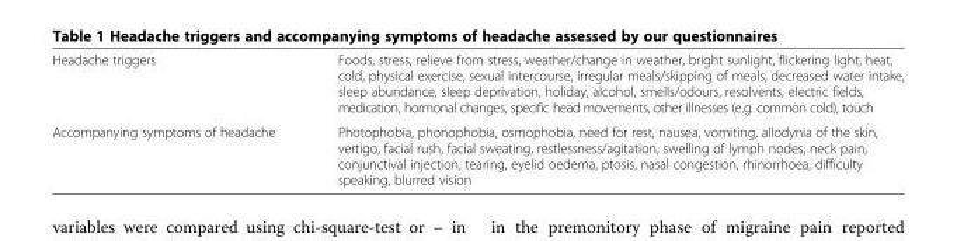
<table><tbody><tr><td>Headache triggers</td><td>Foods, stress, relieve from stress, weather/change in weather, bright sunlight, flickering light, heat, cold, physical exercise, sexual intercourse, irregular meals/skipping of meals, decreased water intake, sleep abundance, sleep deprivation, holiday, alcohol, smells/odours, resolvents, electric fields, medication, hormonal changes, specific head movements, other illnesses (e.g. common cold), touch</td></tr><tr><td>Accompanying symptoms of headache</td><td>Photophobia, phonophobia, osmophobia, need for rest, nausea, vomiting, allodynia of the skin, vertigo, facial rush, facial sweating, restlessness/agitation, swelling of lymph nodes, neck pain, conjunctival injection, tearing, eyelid oedema, ptosis, nasal congestion, rhinorrhoea, difficulty speaking, blurred vision</td></tr></tbody></table>